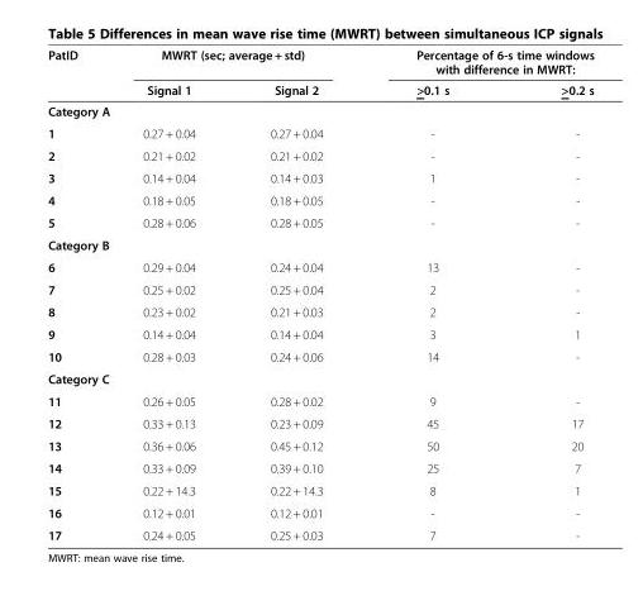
<table><thead><tr><td rowspan="2">PatID</td><td colspan="2">MWRT (sec; average + std)</td><td colspan="2">Percentage of 6-s time windows with difference in MWRT:</td></tr><tr><td>Signal 1</td><td>Signal 2</td><td>&gt;0.1 s</td><td>&gt;0.2 s</td></tr></thead><tbody><tr><td colspan="5">Category A</td></tr><tr><td>1</td><td>0.27 + 0.04</td><td>0.27 + 0.04</td><td>-</td><td>-</td></tr><tr><td>2</td><td>0.21 + 0.02</td><td>0.21 + 0.02</td><td>-</td><td>-</td></tr><tr><td>3</td><td>0.14 + 0.04</td><td>0.14 + 0.03</td><td>1</td><td>-</td></tr><tr><td>4</td><td>0.18 + 0.05</td><td>0.18 + 0.05</td><td>-</td><td>-</td></tr><tr><td>5</td><td>0.28 + 0.06</td><td>0.28 + 0.05</td><td>-</td><td>-</td></tr><tr><td colspan="5">Category B</td></tr><tr><td>6</td><td>0.29 + 0.04</td><td>0.24 + 0.04</td><td>13</td><td>-</td></tr><tr><td>7</td><td>0.25 + 0.02</td><td>0.25 + 0.04</td><td>2</td><td>-</td></tr><tr><td>8</td><td>0.23 + 0.02</td><td>0.21 + 0.03</td><td>2</td><td>-</td></tr><tr><td>9</td><td>0.14 + 0.04</td><td>0.14 + 0.04</td><td>3</td><td>1</td></tr><tr><td>10</td><td>0.28 + 0.03</td><td>0.24 + 0.06</td><td>14</td><td>-</td></tr><tr><td colspan="5">Category C</td></tr><tr><td>11</td><td>0.26 + 0.05</td><td>0.28 + 0.02</td><td>9</td><td>-</td></tr><tr><td>12</td><td>0.33 + 0.13</td><td>0.23 + 0.09</td><td>45</td><td>17</td></tr><tr><td>13</td><td>0.36 + 0.06</td><td>0.45 + 0.12</td><td>50</td><td>20</td></tr><tr><td>14</td><td>0.33 + 0.09</td><td>0.39 + 0.10</td><td>25</td><td>7</td></tr><tr><td>15</td><td>0.22 + 14.3</td><td>0.22 + 14.3</td><td>8</td><td>1</td></tr><tr><td>16</td><td>0.12 + 0.01</td><td>0.12 + 0.01</td><td>-</td><td>-</td></tr><tr><td>17</td><td>0.24 + 0.05</td><td>0.25 + 0.03</td><td>7</td><td>-</td></tr></tbody></table>